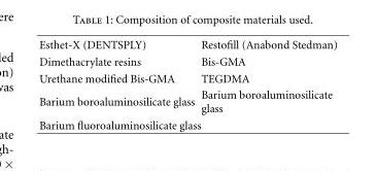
<table><tbody><tr><td>Esthet-X (DENTSPLY)</td><td>Restofill (Anabond Stedman)</td></tr><tr><td>Dimethacrylate resins</td><td>Bis-GMA</td></tr><tr><td>Urethane modified Bis-GMA</td><td>TEGDMA</td></tr><tr><td>Barium boroaluminosilicate glass</td><td>Barium boroaluminosilicate glass</td></tr><tr><td>Barium fluoroaluminosilicate glass</td><td></td></tr></tbody></table>